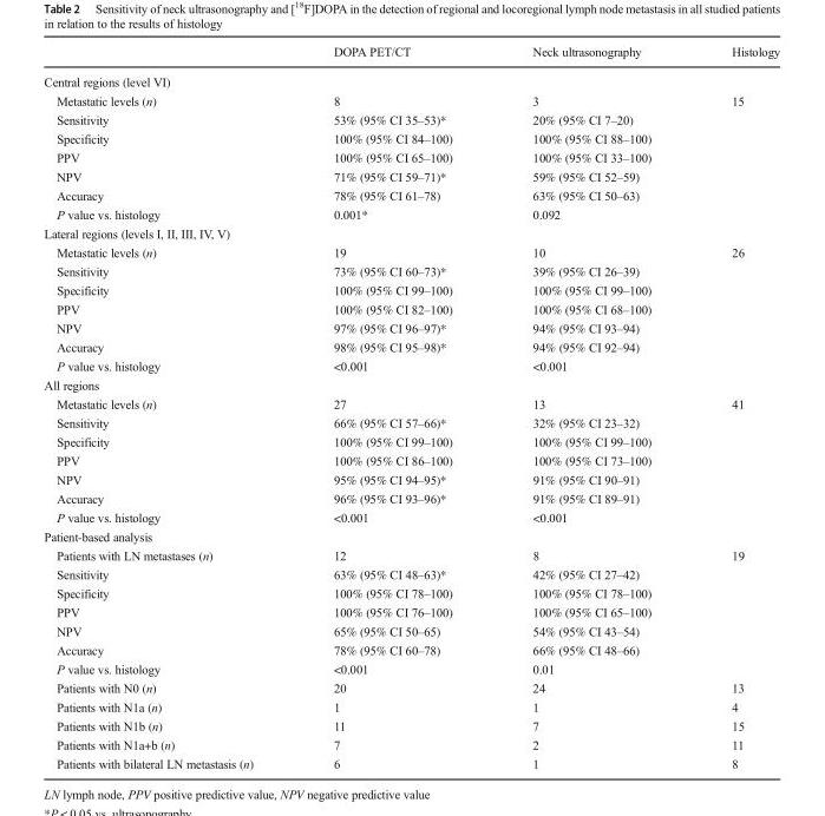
<table><thead><tr><td></td><td>DOPA PET/CT</td><td>Neck ultrasonography</td><td>Histology</td></tr></thead><tbody><tr><td colspan="4">Central regions (level VI)</td></tr><tr><td>Metastatic levels (n)</td><td>8</td><td>3</td><td>15</td></tr><tr><td>Sensitivity</td><td>53% (95% CI 35–53)*</td><td>20% (95% CI 7–20)</td><td></td></tr><tr><td>Specificity</td><td>100% (95% CI 84–100)</td><td>100% (95% CI 88–100)</td><td></td></tr><tr><td>PPV</td><td>100% (95% CI 65–100)</td><td>100% (95% CI 33–100)</td><td></td></tr><tr><td>NPV</td><td>71% (95% CI 59–71)*</td><td>59% (95% CI 52–59)</td><td></td></tr><tr><td>Accuracy</td><td>78% (95% CI 61–78)</td><td>63% (95% CI 50–63)</td><td></td></tr><tr><td>P value vs. histology</td><td>0.001*</td><td>0.092</td><td></td></tr><tr><td colspan="4">Lateral regions (levels I, II, III, IV, V)</td></tr><tr><td>Metastatic levels (n)</td><td>19</td><td>10</td><td>26</td></tr><tr><td>Sensitivity</td><td>73% (95% CI 60–73)*</td><td>39% (95% CI 26–39)</td><td></td></tr><tr><td>Specificity</td><td>100% (95% CI 99–100)</td><td>100% (95% CI 99–100)</td><td></td></tr><tr><td>PPV</td><td>100% (95% CI 82–100)</td><td>100% (95% CI 68–100)</td><td></td></tr><tr><td>NPV</td><td>97% (95% CI 96–97)*</td><td>94% (95% CI 93–94)</td><td></td></tr><tr><td>Accuracy</td><td>98% (95% CI 95–98)*</td><td>94% (95% CI 92–94)</td><td></td></tr><tr><td>P value vs. histology</td><td>&lt;0.001</td><td>&lt;0.001</td><td></td></tr><tr><td colspan="4">All regions</td></tr><tr><td>Metastatic levels (n)</td><td>27</td><td>13</td><td>41</td></tr><tr><td>Sensitivity</td><td>66% (95% CI 57–66)*</td><td>32% (95% CI 23–32)</td><td></td></tr><tr><td>Specificity</td><td>100% (95% CI 99–100)</td><td>100% (95% CI 99–100)</td><td></td></tr><tr><td>PPV</td><td>100% (95% CI 86–100)</td><td>100% (95% CI 73–100)</td><td></td></tr><tr><td>NPV</td><td>95% (95% CI 94–95)*</td><td>91% (95% CI 90–91)</td><td></td></tr><tr><td>Accuracy</td><td>96% (95% CI 93–96)*</td><td>91% (95% CI 89–91)</td><td></td></tr><tr><td>P value vs. histology</td><td>&lt;0.001</td><td>&lt;0.001</td><td></td></tr><tr><td colspan="4">Patient-based analysis</td></tr><tr><td>Patients with LN metastases (n)</td><td>12</td><td>8</td><td>19</td></tr><tr><td>Sensitivity</td><td>63% (95% CI 48–63)*</td><td>42% (95% CI 27–42)</td><td></td></tr><tr><td>Specificity</td><td>100% (95% CI 78–100)</td><td>100% (95% CI 78–100)</td><td></td></tr><tr><td>PPV</td><td>100% (95% CI 76–100)</td><td>100% (95% CI 65–100)</td><td></td></tr><tr><td>NPV</td><td>65% (95% CI 50–65)</td><td>54% (95% CI 43–54)</td><td></td></tr><tr><td>Accuracy</td><td>78% (95% CI 60–78)</td><td>66% (95% CI 48–66)</td><td></td></tr><tr><td>P value vs. histology</td><td>&lt;0.001</td><td>0.01</td><td></td></tr><tr><td>Patients with N0 (n)</td><td>20</td><td>24</td><td>13</td></tr><tr><td>Patients with N1a (n)</td><td>1</td><td>1</td><td>4</td></tr><tr><td>Patients with N1b (n)</td><td>11</td><td>7</td><td>15</td></tr><tr><td>Patients with N1a+b (n)</td><td>7</td><td>2</td><td>11</td></tr><tr><td>Patients with bilateral LN metastasis (n)</td><td>6</td><td>1</td><td>8</td></tr></tbody></table>